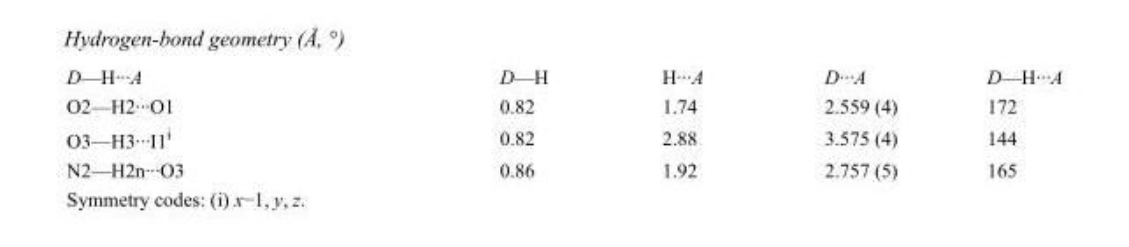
<table><tbody><tr><td>D—H···A</td><td>D—H</td><td>H···A</td><td>D···A</td><td>D—H···A</td></tr><tr><td>O2—H2···O1</td><td>0.82</td><td>1.74</td><td>2.559 (4)</td><td>172</td></tr><tr><td>O3—H3···I1<sup>i</sup></td><td>0.82</td><td>2.88</td><td>3.575 (4)</td><td>144</td></tr><tr><td>N2—H2n···O3</td><td>0.86</td><td>1.92</td><td>2.757 (5)</td><td>165</td></tr></tbody></table>